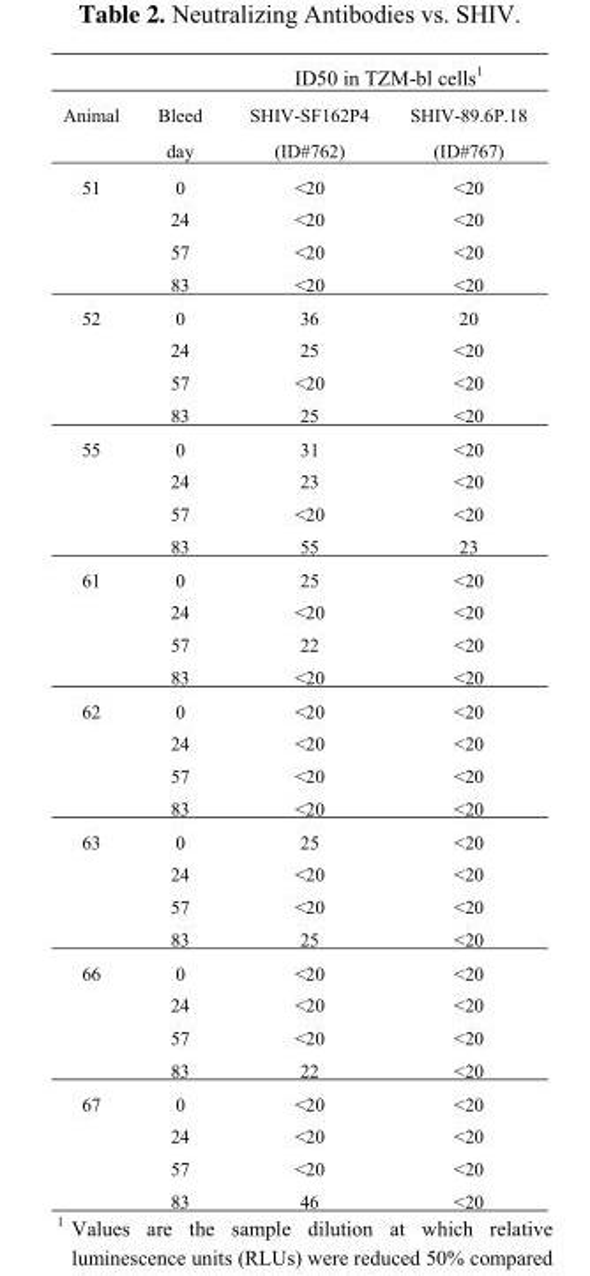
<table><thead><tr><td rowspan="2">Animal</td><td rowspan="2">Bleed day</td><td colspan="2">ID50 in TZM-bl cells<sup>1</sup></td></tr><tr><td>SHIV-SF162P4 (ID#762)</td><td>SHIV-89.6P.18 (ID#767)</td></tr></thead><tbody><tr><td rowspan="4">51</td><td>0</td><td>&lt;20</td><td>&lt;20</td></tr><tr><td>24</td><td>&lt;20</td><td>&lt;20</td></tr><tr><td>57</td><td>&lt;20</td><td>&lt;20</td></tr><tr><td>83</td><td>&lt;20</td><td>&lt;20</td></tr><tr><td rowspan="4">52</td><td>0</td><td>36</td><td>20</td></tr><tr><td>24</td><td>25</td><td>&lt;20</td></tr><tr><td>57</td><td>&lt;20</td><td>&lt;20</td></tr><tr><td>83</td><td>25</td><td>&lt;20</td></tr><tr><td rowspan="4">55</td><td>0</td><td>31</td><td>&lt;20</td></tr><tr><td>24</td><td>23</td><td>&lt;20</td></tr><tr><td>57</td><td>&lt;20</td><td>&lt;20</td></tr><tr><td>83</td><td>55</td><td>23</td></tr><tr><td rowspan="4">61</td><td>0</td><td>25</td><td>&lt;20</td></tr><tr><td>24</td><td>&lt;20</td><td>&lt;20</td></tr><tr><td>57</td><td>22</td><td>&lt;20</td></tr><tr><td>83</td><td>&lt;20</td><td>&lt;20</td></tr><tr><td rowspan="4">62</td><td>0</td><td>&lt;20</td><td>&lt;20</td></tr><tr><td>24</td><td>&lt;20</td><td>&lt;20</td></tr><tr><td>57</td><td>&lt;20</td><td>&lt;20</td></tr><tr><td>83</td><td>&lt;20</td><td>&lt;20</td></tr><tr><td rowspan="4">63</td><td>0</td><td>25</td><td>&lt;20</td></tr><tr><td>24</td><td>&lt;20</td><td>&lt;20</td></tr><tr><td>57</td><td>&lt;20</td><td>&lt;20</td></tr><tr><td>83</td><td>25</td><td>&lt;20</td></tr><tr><td rowspan="4">66</td><td>0</td><td>&lt;20</td><td>&lt;20</td></tr><tr><td>24</td><td>&lt;20</td><td>&lt;20</td></tr><tr><td>57</td><td>&lt;20</td><td>&lt;20</td></tr><tr><td>83</td><td>22</td><td>&lt;20</td></tr><tr><td rowspan="4">67</td><td>0</td><td>&lt;20</td><td>&lt;20</td></tr><tr><td>24</td><td>&lt;20</td><td>&lt;20</td></tr><tr><td>57</td><td>&lt;20</td><td>&lt;20</td></tr><tr><td>83</td><td>46</td><td>&lt;20</td></tr></tbody></table>